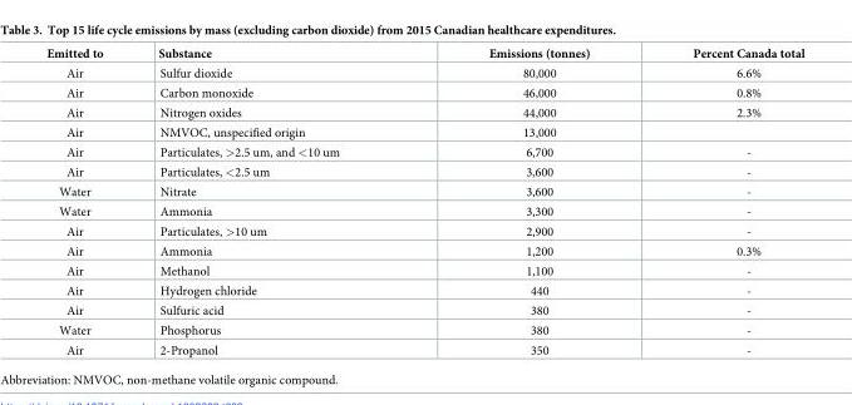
<table><thead><tr><td>Emitted to</td><td>Substance</td><td>Emissions (tonnes)</td><td>Percent Canada total</td></tr></thead><tbody><tr><td>Air</td><td>Sulfur dioxide</td><td>80,000</td><td>6.6%</td></tr><tr><td>Air</td><td>Carbon monoxide</td><td>46,000</td><td>0.8%</td></tr><tr><td>Air</td><td>Nitrogen oxides</td><td>44,000</td><td>2.3%</td></tr><tr><td>Air</td><td>NMVOC, unspecified origin</td><td>13,000</td><td></td></tr><tr><td>Air</td><td>Particulates, &gt;2.5 um, and &lt;10 um</td><td>6,700</td><td>-</td></tr><tr><td>Air</td><td>Particulates, &lt;2.5 um</td><td>3,600</td><td>-</td></tr><tr><td>Water</td><td>Nitrate</td><td>3,600</td><td>-</td></tr><tr><td>Water</td><td>Ammonia</td><td>3,300</td><td>-</td></tr><tr><td>Air</td><td>Particulates, &gt;10 um</td><td>2,900</td><td>-</td></tr><tr><td>Air</td><td>Ammonia</td><td>1,200</td><td>0.3%</td></tr><tr><td>Air</td><td>Methanol</td><td>1,100</td><td>-</td></tr><tr><td>Air</td><td>Hydrogen chloride</td><td>440</td><td>-</td></tr><tr><td>Air</td><td>Sulfuric acid</td><td>380</td><td>-</td></tr><tr><td>Water</td><td>Phosphorus</td><td>380</td><td>-</td></tr><tr><td>Air</td><td>2-Propanol</td><td>350</td><td>-</td></tr></tbody></table>